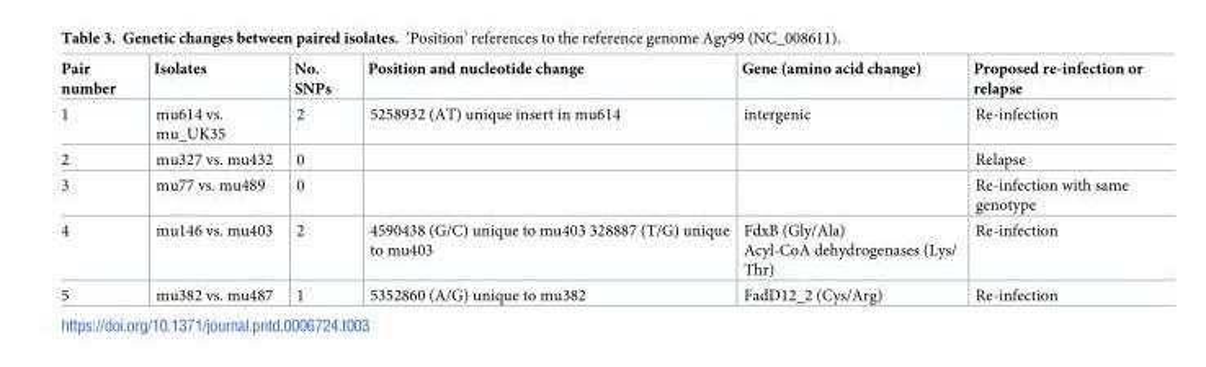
<table><thead><tr><td>Pair number</td><td>Isolates</td><td>No. SNPs</td><td>Position and nucleotide change</td><td>Gene (amino acid change)</td><td>Proposed re-infection or relapse</td></tr></thead><tbody><tr><td>1</td><td>mu614 vs. mu_UK35</td><td>2</td><td>5258932 (AT) unique insert in mu614</td><td>intergenic</td><td>Re-infection</td></tr><tr><td>2</td><td>mu327 vs. mu432</td><td>0</td><td></td><td></td><td>Relapse</td></tr><tr><td>3</td><td>mu77 vs. mu489</td><td>0</td><td></td><td></td><td>Re-infection with same genotype</td></tr><tr><td>4</td><td>mu146 vs. mu403</td><td>2</td><td>4590438 (G/C) unique to mu403 328887 (T/G) unique to mu403</td><td>FdxB (Gly/Ala) Acyl-CoA dehydrogenases (Lys/ Thr)</td><td>Re-infection</td></tr><tr><td>5</td><td>mu382 vs. mu487</td><td>1</td><td>5352860 (A/G) unique to mu382</td><td>FadD12_2 (Cys/Arg)</td><td>Re-infection</td></tr></tbody></table>